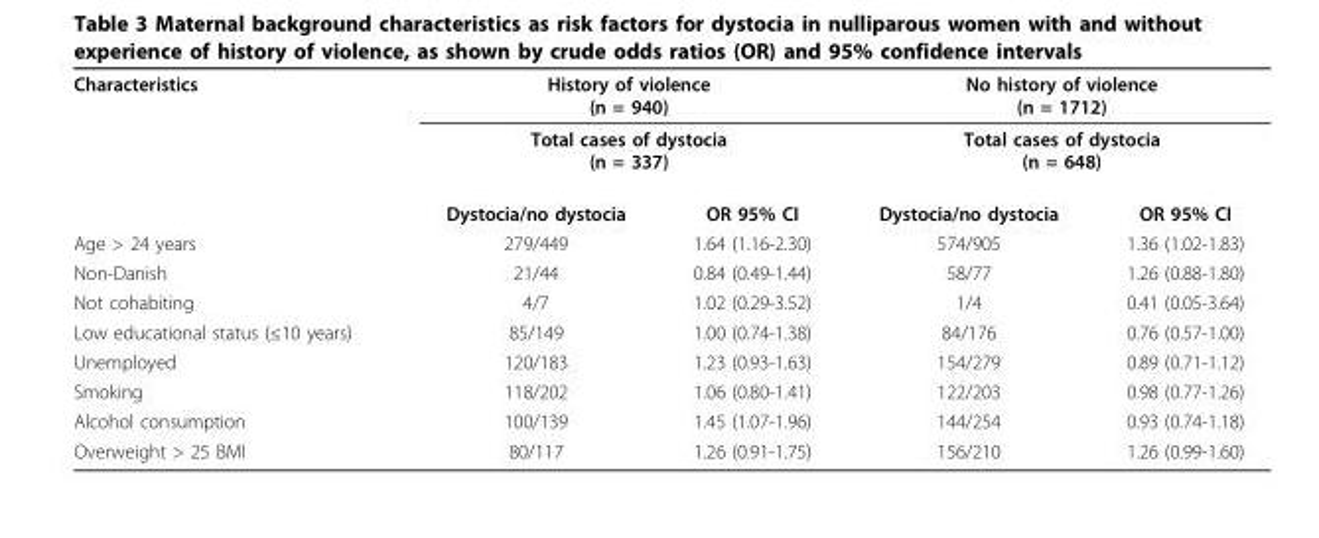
<table><tbody><tr><td rowspan="3">Characteristics</td><td colspan="2">History of violence (n = 940)</td><td colspan="2">No history of violence (n = 1712)</td></tr><tr><td colspan="2">Total cases of dystocia (n = 337)</td><td colspan="2">Total cases of dystocia (n = 648)</td></tr><tr><td>Dystocia/no dystocia</td><td>OR 95% CI</td><td>Dystocia/no dystocia</td><td>OR 95% CI</td></tr><tr><td>Age &gt; 24 years</td><td>279/449</td><td>1.64 (1.16-2.30)</td><td>574/905</td><td>1.36 (1.02-1.83)</td></tr><tr><td>Non-Danish</td><td>21/44</td><td>0.84 (0.49-1.44)</td><td>58/77</td><td>1.26 (0.88-1.80)</td></tr><tr><td>Not cohabiting</td><td>4/7</td><td>1.02 (0.29-3.52)</td><td>1/4</td><td>0.41 (0.05-3.64)</td></tr><tr><td>Low educational status (≤10 years)</td><td>85/149</td><td>1.00 (0.74-1.38)</td><td>84/176</td><td>0.76 (0.57-1.00)</td></tr><tr><td>Unemployed</td><td>120/183</td><td>1.23 (0.93-1.63)</td><td>154/279</td><td>0.89 (0.71-1.12)</td></tr><tr><td>Smoking</td><td>118/202</td><td>1.06 (0.80-1.41)</td><td>122/203</td><td>0.98 (0.77-1.26)</td></tr><tr><td>Alcohol consumption</td><td>100/139</td><td>1.45 (1.07-1.96)</td><td>144/254</td><td>0.93 (0.74-1.18)</td></tr><tr><td>Overweight &gt; 25 BMI</td><td>80/117</td><td>1.26 (0.91-1.75)</td><td>156/210</td><td>1.26 (0.99-1.60)</td></tr></tbody></table>